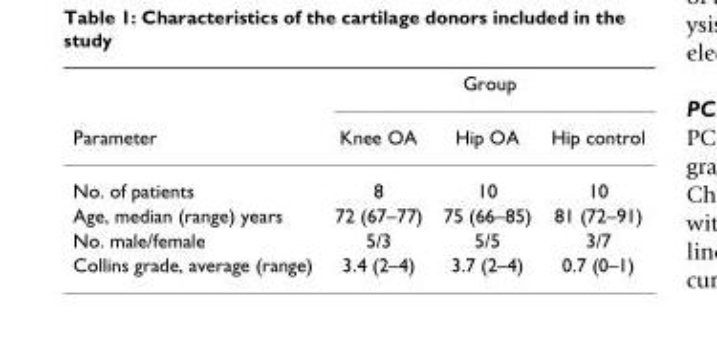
<table><thead><tr><td rowspan="2">Parameter</td><td colspan="3">Group</td></tr><tr><td>Knee OA</td><td>Hip OA</td><td>Hip control</td></tr></thead><tbody><tr><td>No. of patients</td><td>8</td><td>10</td><td>10</td></tr><tr><td>Age, median (range) years</td><td>72 (67–77)</td><td>75 (66–85)</td><td>81 (72–91)</td></tr><tr><td>No. male/female</td><td>5/3</td><td>5/5</td><td>3/7</td></tr><tr><td>Collins grade, average (range)</td><td>3.4 (2–4)</td><td>3.7 (2–4)</td><td>0.7 (0–1)</td></tr></tbody></table>